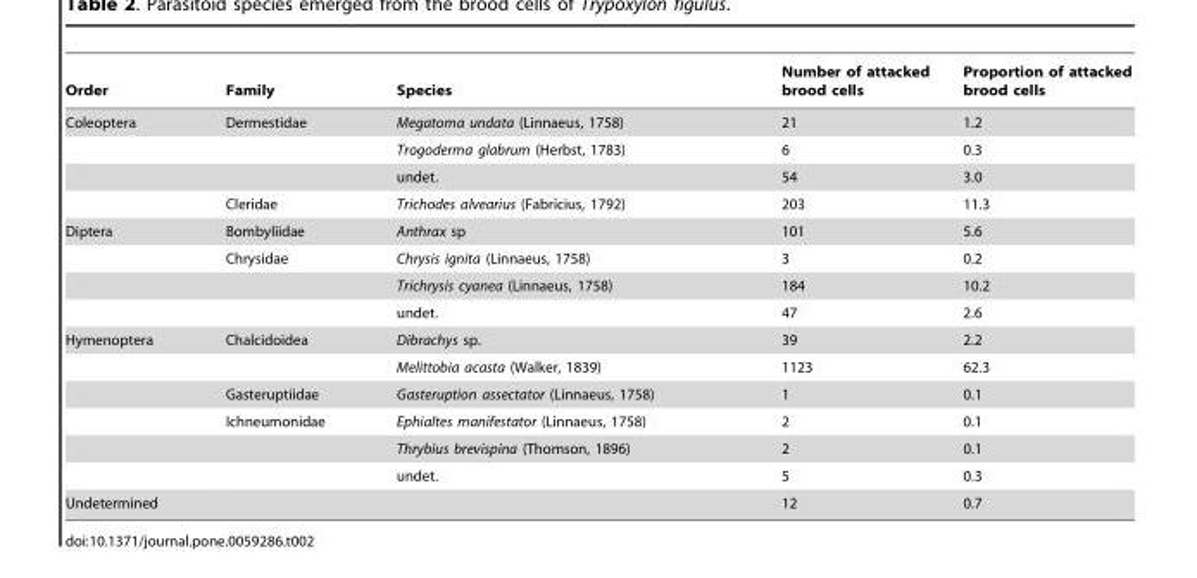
<table><thead><tr><td>Order</td><td>Family</td><td>Species</td><td>Number of attacked brood cells</td><td>Proportion of attacked brood cells</td></tr></thead><tbody><tr><td rowspan="4">Coleoptera</td><td>Dermestidae</td><td>Megatoma undata (Linnaeus, 1758)</td><td>21</td><td>1.2</td></tr><tr><td></td><td>Trogoderma glabrum (Herbst, 1783)</td><td>6</td><td>0.3</td></tr><tr><td></td><td>undet.</td><td>54</td><td>3.0</td></tr><tr><td>Cleridae</td><td>Trichodes alvearius (Fabricius, 1792)</td><td>203</td><td>11.3</td></tr><tr><td rowspan="4">Diptera</td><td>Bombyliidae</td><td>Anthrax sp</td><td>101</td><td>5.6</td></tr><tr><td>Chrysidae</td><td>Chrysis ignita (Linnaeus, 1758)</td><td>3</td><td>0.2</td></tr><tr><td></td><td>Trichrysis cyanea (Linnaeus, 1758)</td><td>184</td><td>10.2</td></tr><tr><td></td><td>undet.</td><td>47</td><td>2.6</td></tr><tr><td rowspan="6">Hymenoptera</td><td>Chalcidoidea</td><td>Dibrachys sp.</td><td>39</td><td>2.2</td></tr><tr><td></td><td>Melittobia acasta (Walker, 1839)</td><td>1123</td><td>62.3</td></tr><tr><td>Gasteruptiidae</td><td>Gasteruption assectator (Linnaeus, 1758)</td><td>1</td><td>0.1</td></tr><tr><td>Ichneumonidae</td><td>Ephialtes manifestator (Linnaeus, 1758)</td><td>2</td><td>0.1</td></tr><tr><td></td><td>Thrybius brevispina (Thomson, 1896)</td><td>2</td><td>0.1</td></tr><tr><td></td><td>undet.</td><td>5</td><td>0.3</td></tr><tr><td>Undetermined</td><td></td><td></td><td>12</td><td>0.7</td></tr></tbody></table>